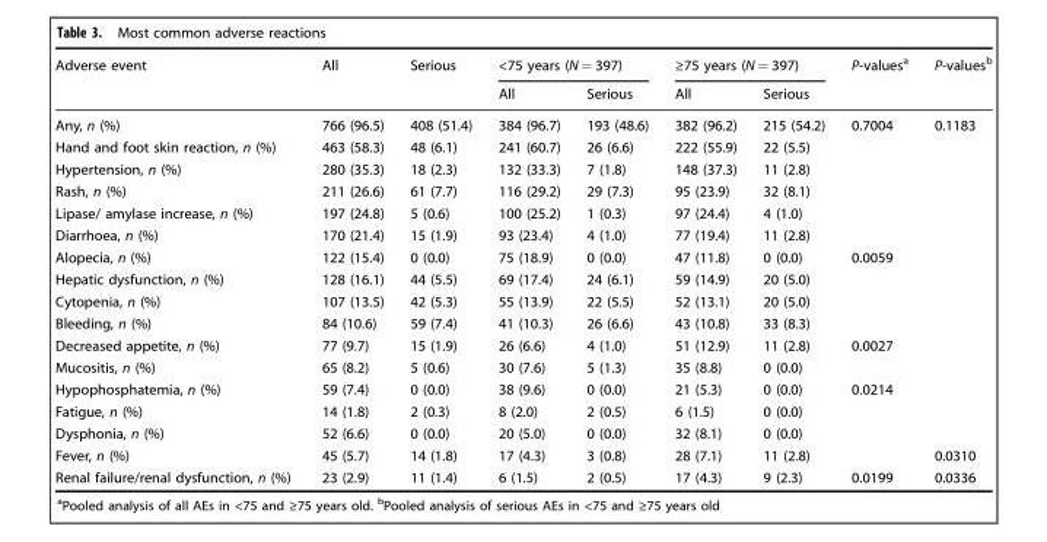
<table><thead><tr><td rowspan="2">Adverse event</td><td rowspan="2">All</td><td rowspan="2">Serious</td><td colspan="2">&lt;75 years (N = 397)</td><td colspan="2">≥75 years (N = 397)</td><td rowspan="2">P-values<sup>a</sup></td><td rowspan="2">P-values<sup>b</sup></td></tr><tr><td>All</td><td>Serious</td><td>All</td><td>Serious</td></tr></thead><tbody><tr><td>Any, n (%)</td><td>766 (96.5)</td><td>408 (51.4)</td><td>384 (96.7)</td><td>193 (48.6)</td><td>382 (96.2)</td><td>215 (54.2)</td><td>0.7004</td><td>0.1183</td></tr><tr><td>Hand and foot skin reaction, n (%)</td><td>463 (58.3)</td><td>48 (6.1)</td><td>241 (60.7)</td><td>26 (6.6)</td><td>222 (55.9)</td><td>22 (5.5)</td><td></td><td></td></tr><tr><td>Hypertension, n (%)</td><td>280 (35.3)</td><td>18 (2.3)</td><td>132 (33.3)</td><td>7 (1.8)</td><td>148 (37.3)</td><td>11 (2.8)</td><td></td><td></td></tr><tr><td>Rash, n (%)</td><td>211 (26.6)</td><td>61 (7.7)</td><td>116 (29.2)</td><td>29 (7.3)</td><td>95 (23.9)</td><td>32 (8.1)</td><td></td><td></td></tr><tr><td>Lipase/ amylase increase, n (%)</td><td>197 (24.8)</td><td>5 (0.6)</td><td>100 (25.2)</td><td>1 (0.3)</td><td>97 (24.4)</td><td>4 (1.0)</td><td></td><td></td></tr><tr><td>Diarrhoea, n (%)</td><td>170 (21.4)</td><td>15 (1.9)</td><td>93 (23.4)</td><td>4 (1.0)</td><td>77 (19.4)</td><td>11 (2.8)</td><td></td><td></td></tr><tr><td>Alopecia, n (%)</td><td>122 (15.4)</td><td>0 (0.0)</td><td>75 (18.9)</td><td>0 (0.0)</td><td>47 (11.8)</td><td>0 (0.0)</td><td>0.0059</td><td></td></tr><tr><td>Hepatic dysfunction, n (%)</td><td>128 (16.1)</td><td>44 (5.5)</td><td>69 (17.4)</td><td>24 (6.1)</td><td>59 (14.9)</td><td>20 (5.0)</td><td></td><td></td></tr><tr><td>Cytopenia, n (%)</td><td>107 (13.5)</td><td>42 (5.3)</td><td>55 (13.9)</td><td>22 (5.5)</td><td>52 (13.1)</td><td>20 (5.0)</td><td></td><td></td></tr><tr><td>Bleeding, n (%)</td><td>84 (10.6)</td><td>59 (7.4)</td><td>41 (10.3)</td><td>26 (6.6)</td><td>43 (10.8)</td><td>33 (8.3)</td><td></td><td></td></tr><tr><td>Decreased appetite, n (%)</td><td>77 (9.7)</td><td>15 (1.9)</td><td>26 (6.6)</td><td>4 (1.0)</td><td>51 (12.9)</td><td>11 (2.8)</td><td>0.0027</td><td></td></tr><tr><td>Mucositis, n (%)</td><td>65 (8.2)</td><td>5 (0.6)</td><td>30 (7.6)</td><td>5 (1.3)</td><td>35 (8.8)</td><td>0 (0.0)</td><td></td><td></td></tr><tr><td>Hypophosphatemia, n (%)</td><td>59 (7.4)</td><td>0 (0.0)</td><td>38 (9.6)</td><td>0 (0.0)</td><td>21 (5.3)</td><td>0 (0.0)</td><td>0.0214</td><td></td></tr><tr><td>Fatigue, n (%)</td><td>14 (1.8)</td><td>2 (0.3)</td><td>8 (2.0)</td><td>2 (0.5)</td><td>6 (1.5)</td><td>0 (0.0)</td><td></td><td></td></tr><tr><td>Dysphonia, n (%)</td><td>52 (6.6)</td><td>0 (0.0)</td><td>20 (5.0)</td><td>0 (0.0)</td><td>32 (8.1)</td><td>0 (0.0)</td><td></td><td></td></tr><tr><td>Fever, n (%)</td><td>45 (5.7)</td><td>14 (1.8)</td><td>17 (4.3)</td><td>3 (0.8)</td><td>28 (7.1)</td><td>11 (2.8)</td><td></td><td>0.0310</td></tr><tr><td>Renal failure/renal dysfunction, n (%)</td><td>23 (2.9)</td><td>11 (1.4)</td><td>6 (1.5)</td><td>2 (0.5)</td><td>17 (4.3)</td><td>9 (2.3)</td><td>0.0199</td><td>0.0336</td></tr></tbody></table>